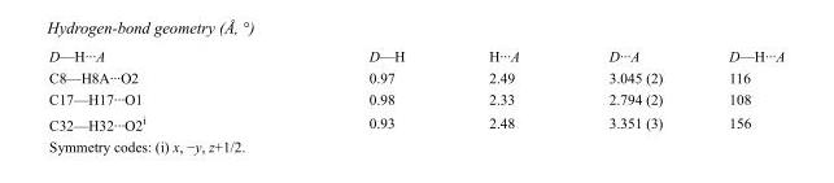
<table><tbody><tr><td>D—H···A</td><td>D—H</td><td>H···A</td><td>D···A</td><td>D—H···A</td></tr><tr><td>C8—H8A···O2</td><td>0.97</td><td>2.49</td><td>3.045 (2)</td><td>116</td></tr><tr><td>C17—H17···O1</td><td>0.98</td><td>2.33</td><td>2.794 (2)</td><td>108</td></tr><tr><td>C32—H32···O2<sup>i</sup></td><td>0.93</td><td>2.48</td><td>3.351 (3)</td><td>156</td></tr></tbody></table>